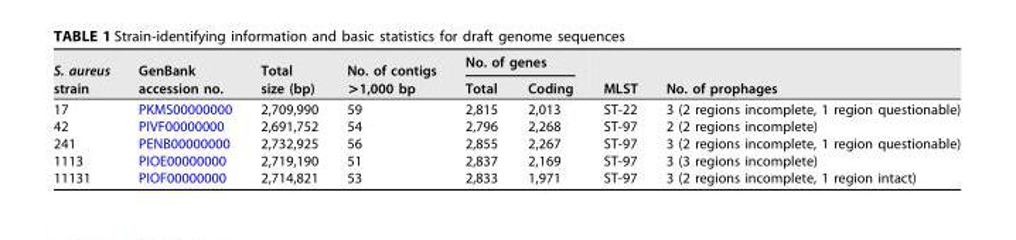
<table><thead><tr><td rowspan="2">S. aureus strain</td><td rowspan="2">GenBank accession no.</td><td rowspan="2">Total size (bp)</td><td rowspan="2">No. of contigs &gt;1,000 bp</td><td colspan="2">No. of genes</td><td rowspan="2">MLST</td><td rowspan="2">No. of prophages</td></tr><tr><td>Total</td><td>Coding</td></tr></thead><tbody><tr><td>17</td><td>PKMS00000000</td><td>2,709,990</td><td>59</td><td>2,815</td><td>2,013</td><td>ST-22</td><td>3 (2 regions incomplete, 1 region questionable)</td></tr><tr><td>42</td><td>PIVF00000000</td><td>2,691,752</td><td>54</td><td>2,796</td><td>2,268</td><td>ST-97</td><td>2 (2 regions incomplete)</td></tr><tr><td>241</td><td>PENB00000000</td><td>2,732,925</td><td>56</td><td>2,855</td><td>2,267</td><td>ST-97</td><td>3 (2 regions incomplete, 1 region questionable)</td></tr><tr><td>1113</td><td>PIOE00000000</td><td>2,719,190</td><td>51</td><td>2,837</td><td>2,169</td><td>ST-97</td><td>3 (3 regions incomplete)</td></tr><tr><td>11131</td><td>PIOF00000000</td><td>2,714,821</td><td>53</td><td>2,833</td><td>1,971</td><td>ST-97</td><td>3 (2 regions incomplete, 1 region intact)</td></tr></tbody></table>